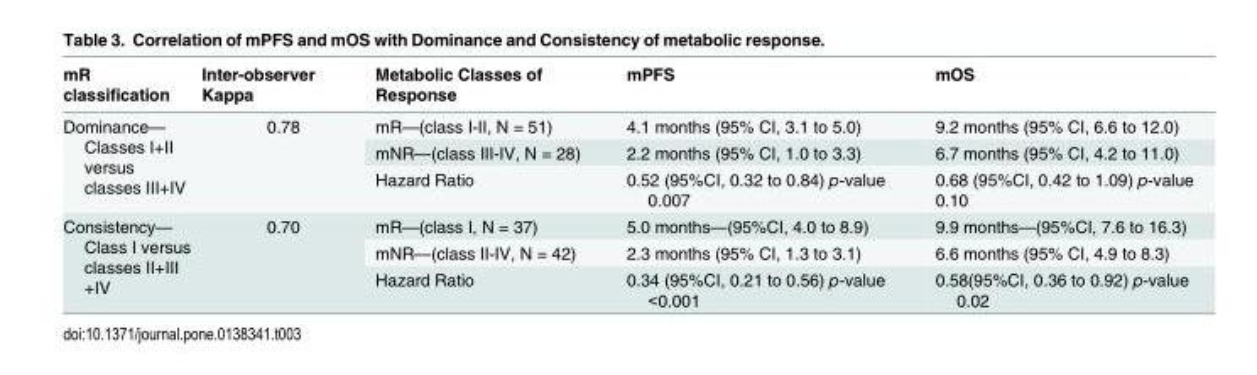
<table><thead><tr><td>mR classification</td><td>Inter-observer Kappa</td><td>Metabolic Classes of Response</td><td>mPFS</td><td>mOS</td></tr></thead><tbody><tr><td rowspan="3">Dominance— Classes I+II versus classes III+IV</td><td rowspan="3">0.78</td><td>mR—(class I-II, N = 51)</td><td>4.1 months (95% CI, 3.1 to 5.0)</td><td>9.2 months (95% CI, 6.6 to 12.0)</td></tr><tr><td>mNR—(class III-IV, N = 28)</td><td>2.2 months (95% CI, 1.0 to 3.3)</td><td>6.7 months (95% CI, 4.2 to 11.0)</td></tr><tr><td>Hazard Ratio</td><td>0.52 (95%CI, 0.32 to 0.84) p-value 0.007</td><td>0.68 (95%CI, 0.42 to 1.09) p-value 0.10</td></tr><tr><td rowspan="3">Consistency— Class I versus classes II+III +IV</td><td rowspan="3">0.70</td><td>mR—(class I, N = 37)</td><td>5.0 months—(95%CI, 4.0 to 8.9)</td><td>9.9 months—(95%CI, 7.6 to 16.3)</td></tr><tr><td>mNR—(class II-IV, N = 42)</td><td>2.3 months (95% CI, 1.3 to 3.1)</td><td>6.6 months (95% CI, 4.9 to 8.3)</td></tr><tr><td>Hazard Ratio</td><td>0.34 (95%CI, 0.21 to 0.56) p-value &lt;0.001</td><td>0.58(95%CI, 0.36 to 0.92) p-value 0.02</td></tr></tbody></table>